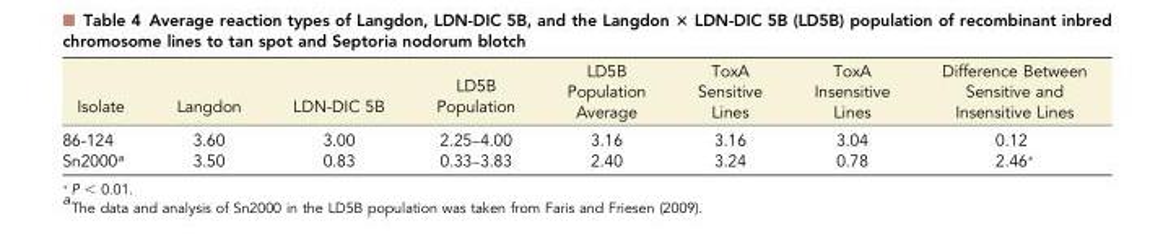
<table><thead><tr><td>Isolate</td><td>Langdon</td><td>LDN-DIC 5B</td><td>LD5B Population</td><td>LD5B Population Average</td><td>ToxA Sensitive Lines</td><td>ToxA Insensitive Lines</td><td>Difference Between Sensitive and Insensitive Lines</td></tr></thead><tbody><tr><td>86-124</td><td>3.60</td><td>3.00</td><td>2.25–4.00</td><td>3.16</td><td>3.16</td><td>3.04</td><td>0.12</td></tr><tr><td>Sn2000<sup>a</sup></td><td>3.50</td><td>0.83</td><td>0.33–3.83</td><td>2.40</td><td>3.24</td><td>0.78</td><td>2.46*</td></tr></tbody></table>